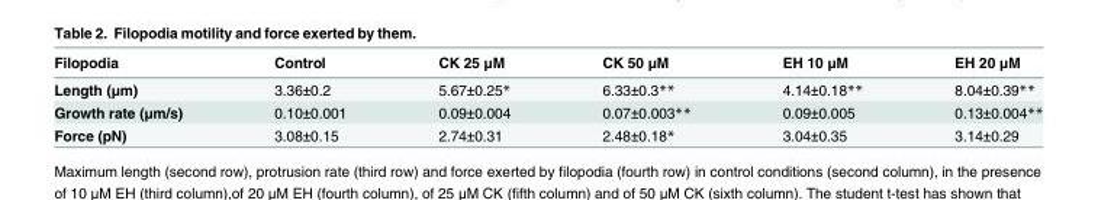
<table><thead><tr><td>Filopodia</td><td>Control</td><td>CK 25 μM</td><td>CK 50 μM</td><td>EH 10 μM</td><td>EH 20 μM</td></tr></thead><tbody><tr><td>Length (μm)</td><td>3.36±0.2</td><td>5.67±0.25*</td><td>6.33±0.3**</td><td>4.14±0.18**</td><td>8.04±0.39**</td></tr><tr><td>Growth rate (μm/s)</td><td>0.10±0.001</td><td>0.09±0.004</td><td>0.07±0.003**</td><td>0.09±0.005</td><td>0.13±0.004**</td></tr><tr><td>Force (pN)</td><td>3.08±0.15</td><td>2.74±0.31</td><td>2.48±0.18*</td><td>3.04±0.35</td><td>3.14±0.29</td></tr></tbody></table>